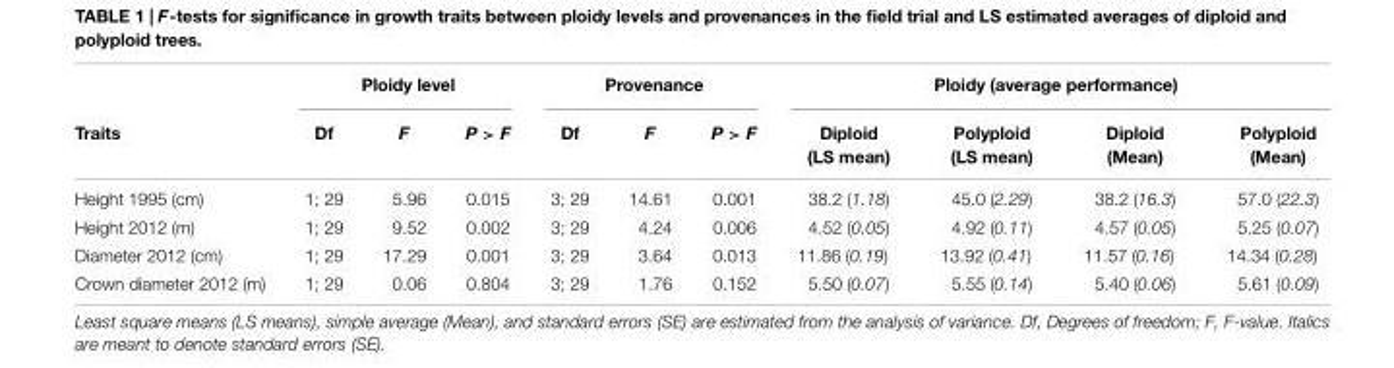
<table><thead><tr><td rowspan="2">Traits</td><td colspan="3">Ploidy level</td><td colspan="3">Provenance</td><td colspan="4">Ploidy (average performance)</td></tr><tr><td>Df</td><td>F</td><td>P &gt; F</td><td>Df</td><td>F</td><td>P &gt; F</td><td>Diploid (LS mean)</td><td>Polyploid (LS mean)</td><td>Diploid (Mean)</td><td>Polyploid (Mean)</td></tr></thead><tbody><tr><td>Height 1995 (cm)</td><td>1; 29</td><td>5.96</td><td>0.015</td><td>3; 29</td><td>14.61</td><td>0.001</td><td>38.2 (1.18)</td><td>45.0 (2.29)</td><td>38.2 (16.3)</td><td>57.0 (22.3)</td></tr><tr><td>Height 2012 (m)</td><td>1; 29</td><td>9.52</td><td>0.002</td><td>3; 29</td><td>4.24</td><td>0.006</td><td>4.52 (0.05)</td><td>4.92 (0.11)</td><td>4.57 (0.05)</td><td>5.25 (0.07)</td></tr><tr><td>Diameter 2012 (cm)</td><td>1; 29</td><td>17.29</td><td>0.001</td><td>3; 29</td><td>3.64</td><td>0.013</td><td>11.86 (0.19)</td><td>13.92 (0.41)</td><td>11.57 (0.16)</td><td>14.34 (0.28)</td></tr><tr><td>Crown diameter 2012 (m)</td><td>1; 29</td><td>0.06</td><td>0.804</td><td>3; 29</td><td>1.76</td><td>0.152</td><td>5.50 (0.07)</td><td>5.55 (0.14)</td><td>5.40 (0.06)</td><td>5.61 (0.09)</td></tr></tbody></table>